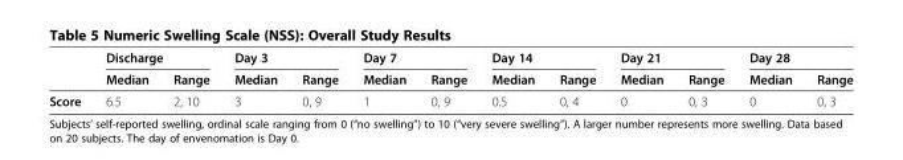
<table><thead><tr><td rowspan="2"></td><td colspan="2">Discharge</td><td colspan="2">Day 3</td><td colspan="2">Day 7</td><td colspan="2">Day 14</td><td colspan="2">Day 21</td><td colspan="2">Day 28</td></tr><tr><td>Median</td><td>Range</td><td>Median</td><td>Range</td><td>Median</td><td>Range</td><td>Median</td><td>Range</td><td>Median</td><td>Range</td><td>Median</td><td>Range</td></tr></thead><tbody><tr><td>Score</td><td>6.5</td><td>2, 10</td><td>3</td><td>0, 9</td><td>1</td><td>0, 9</td><td>0.5</td><td>0, 4</td><td>0</td><td>0, 3</td><td>0</td><td>0, 3</td></tr></tbody></table>